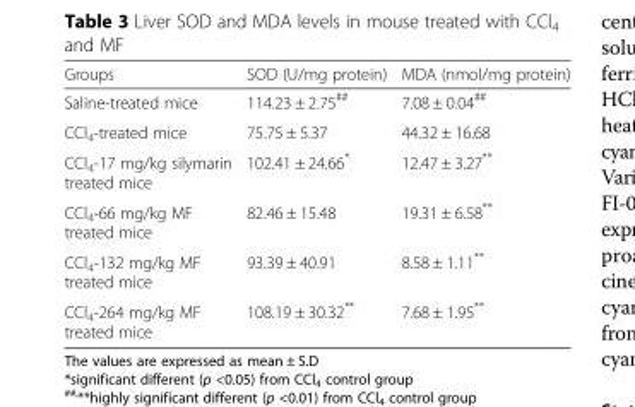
<table><thead><tr><td>Groups</td><td>SOD (U/mg protein)</td><td>MDA (nmol/mg protein)</td></tr></thead><tbody><tr><td>Saline-treated mice</td><td>114.23 ± 2.75<sup>##</sup></td><td>7.08 ± 0.04<sup>##</sup></td></tr><tr><td>CCl<sub>4</sub>-treated mice</td><td>75.75 ± 5.37</td><td>44.32 ± 16.68</td></tr><tr><td>CCl<sub>4</sub>-17 mg/kg silymarin treated mice</td><td>102.41 ± 24.66*</td><td>12.47 ± 3.27**</td></tr><tr><td>CCl<sub>4</sub>-66 mg/kg MF treated mice</td><td>82.46 ± 15.48</td><td>19.31 ± 6.58**</td></tr><tr><td>CCl<sub>4</sub>-132 mg/kg MF treated mice</td><td>93.39 ± 40.91</td><td>8.58 ± 1.11**</td></tr><tr><td>CCl<sub>4</sub>-264 mg/kg MF treated mice</td><td>108.19 ± 30.32**</td><td>7.68 ± 1.95**</td></tr></tbody></table>